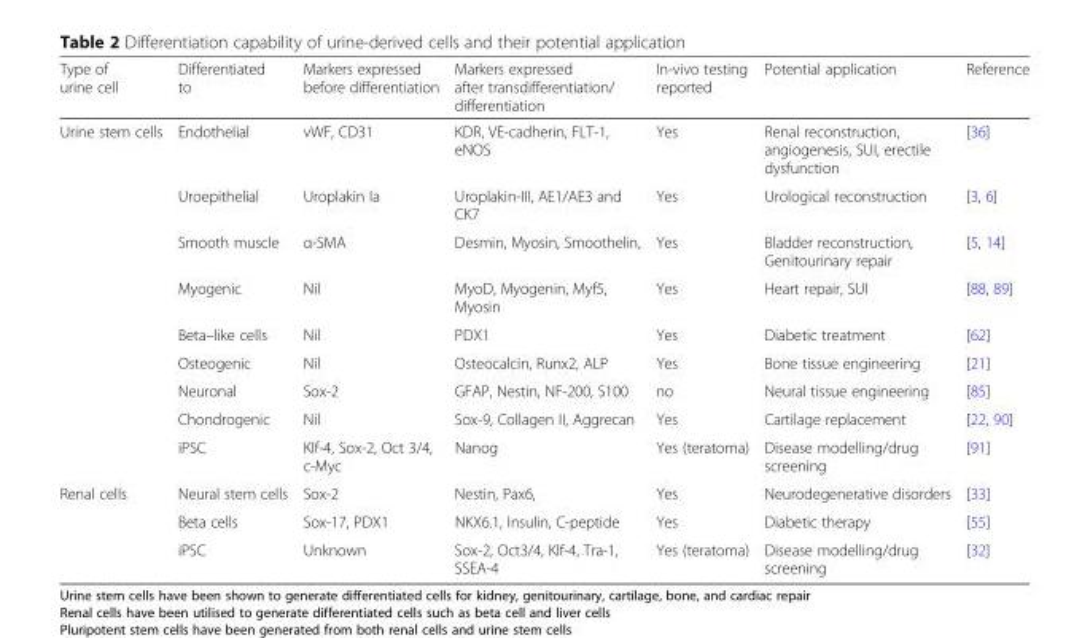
<table><thead><tr><td>Type of urine cell</td><td>Differentiated to</td><td>Markers expressed before differentiation</td><td>Markers expressed after transdifferentiation/ differentiation</td><td>In-vivo testing reported</td><td>Potential application</td><td>Reference</td></tr></thead><tbody><tr><td rowspan="9">Urine stem cells</td><td>Endothelial</td><td>vWF, CD31</td><td>KDR, VE-cadherin, FLT-1, eNOS</td><td>Yes</td><td>Renal reconstruction, angiogenesis, SUI, erectile dysfunction</td><td>[36]</td></tr><tr><td>Uroepithelial</td><td>Uroplakin Ia</td><td>Uroplakin-III, AE1/AE3 and CK7</td><td>Yes</td><td>Urological reconstruction</td><td>[3, 6]</td></tr><tr><td>Smooth muscle</td><td>α-SMA</td><td>Desmin, Myosin, Smoothelin,</td><td>Yes</td><td>Bladder reconstruction, Genitourinary repair</td><td>[5, 14]</td></tr><tr><td>Myogenic</td><td>Nil</td><td>MyoD, Myogenin, Myf5, Myosin</td><td>Yes</td><td>Heart repair, SUI</td><td>[88, 89]</td></tr><tr><td>Beta–like cells</td><td>Nil</td><td>PDX1</td><td>Yes</td><td>Diabetic treatment</td><td>[62]</td></tr><tr><td>Osteogenic</td><td>Nil</td><td>Osteocalcin, Runx2, ALP</td><td>Yes</td><td>Bone tissue engineering</td><td>[21]</td></tr><tr><td>Neuronal</td><td>Sox-2</td><td>GFAP, Nestin, NF-200, S100</td><td>no</td><td>Neural tissue engineering</td><td>[85]</td></tr><tr><td>Chondrogenic</td><td>Nil</td><td>Sox-9, Collagen II, Aggrecan</td><td>Yes</td><td>Cartilage replacement</td><td>[22, 90]</td></tr><tr><td>iPSC</td><td>Klf-4, Sox-2, Oct 3/4, c-Myc</td><td>Nanog</td><td>Yes (teratoma)</td><td>Disease modelling/drug screening</td><td>[91]</td></tr><tr><td rowspan="3">Renal cells</td><td>Neural stem cells</td><td>Sox-2</td><td>Nestin, Pax6,</td><td>Yes</td><td>Neurodegenerative disorders</td><td>[33]</td></tr><tr><td>Beta cells</td><td>Sox-17, PDX1</td><td>NKX6.1, Insulin, C-peptide</td><td>Yes</td><td>Diabetic therapy</td><td>[55]</td></tr><tr><td>iPSC</td><td>Unknown</td><td>Sox-2, Oct3/4, Klf-4, Tra-1, SSEA-4</td><td>Yes (teratoma)</td><td>Disease modelling/drug screening</td><td>[32]</td></tr></tbody></table>